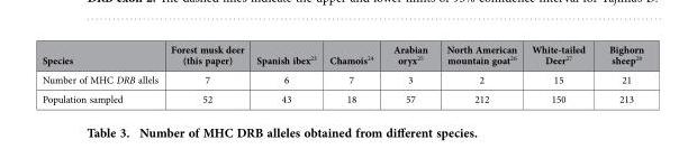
<table><thead><tr><td>Species</td><td>Forest musk deer (this paper)</td><td>Spanish ibex<sup>23</sup></td><td>Chamois<sup>24</sup></td><td>Arabian oryx<sup>25</sup></td><td>North American mountain goat<sup>26</sup></td><td>White-tailed Deer<sup>27</sup></td><td>Bighorn sheep<sup>28</sup></td></tr></thead><tbody><tr><td>Number of MHC DRB allels</td><td>7</td><td>6</td><td>7</td><td>3</td><td>2</td><td>15</td><td>21</td></tr><tr><td>Population sampled</td><td>52</td><td>43</td><td>18</td><td>57</td><td>212</td><td>150</td><td>213</td></tr></tbody></table>